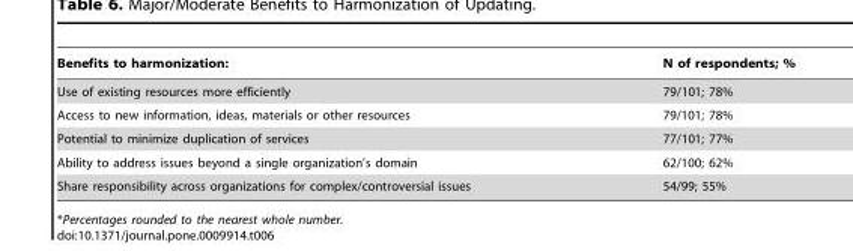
<table><thead><tr><td>Benefits to harmonization:</td><td>N of respondents; %</td></tr></thead><tbody><tr><td>Use of existing resources more efficiently</td><td>79/101; 78%</td></tr><tr><td>Access to new information, ideas, materials or other resources</td><td>79/101; 78%</td></tr><tr><td>Potential to minimize duplication of services</td><td>77/101; 77%</td></tr><tr><td>Ability to address issues beyond a single organization’s domain</td><td>62/100; 62%</td></tr><tr><td>Share responsibility across organizations for complex/controversial issues</td><td>54/99; 55%</td></tr></tbody></table>